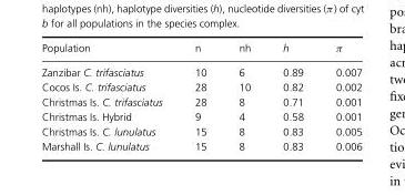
<table><thead><tr><td>Population</td><td>n</td><td>nh</td><td>h</td><td>π</td></tr></thead><tbody><tr><td>Zanzibar C. trifasciatus</td><td>10</td><td>6</td><td>0.89</td><td>0.007</td></tr><tr><td>Cocos Is. C. trifasciatus</td><td>28</td><td>10</td><td>0.82</td><td>0.002</td></tr><tr><td>Christmas Is. C. trifasciatus</td><td>28</td><td>8</td><td>0.71</td><td>0.001</td></tr><tr><td>Christmas Is. Hybrid</td><td>9</td><td>4</td><td>0.58</td><td>0.001</td></tr><tr><td>Christmas Is. C. lunulatus</td><td>15</td><td>8</td><td>0.83</td><td>0.005</td></tr><tr><td>Marshall Is. C. lunulatus</td><td>15</td><td>8</td><td>0.83</td><td>0.006</td></tr></tbody></table>